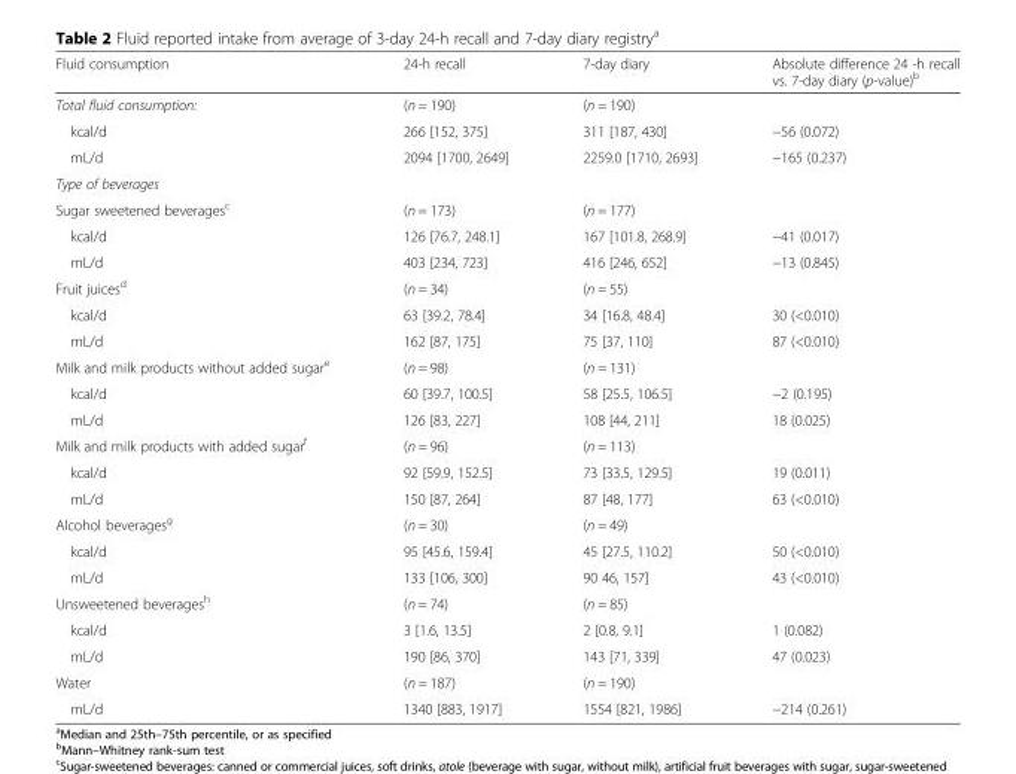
<table><thead><tr><td>Fluid consumption</td><td>24-h recall</td><td>7-day diary</td><td>Absolute difference 24 -h recall vs. 7-day diary (p-value)<sup>b</sup></td></tr></thead><tbody><tr><td>Total fluid consumption:</td><td>(n = 190)</td><td>(n = 190)</td><td></td></tr><tr><td>kcal/d</td><td>266 [152, 375]</td><td>311 [187, 430]</td><td>−56 (0.072)</td></tr><tr><td>mL/d</td><td>2094 [1700, 2649]</td><td>2259.0 [1710, 2693]</td><td>−165 (0.237)</td></tr><tr><td colspan="4">Type of beverages</td></tr><tr><td>Sugar sweetened beverages<sup>c</sup></td><td>(n = 173)</td><td>(n = 177)</td><td></td></tr><tr><td>kcal/d</td><td>126 [76.7, 248.1]</td><td>167 [101.8, 268.9]</td><td>−41 (0.017)</td></tr><tr><td>mL/d</td><td>403 [234, 723]</td><td>416 [246, 652]</td><td>−13 (0.845)</td></tr><tr><td>Fruit juices<sup>d</sup></td><td>(n = 34)</td><td>(n = 55)</td><td></td></tr><tr><td>kcal/d</td><td>63 [39.2, 78.4]</td><td>34 [16.8, 48.4]</td><td>30 (&lt;0.010)</td></tr><tr><td>mL/d</td><td>162 [87, 175]</td><td>75 [37, 110]</td><td>87 (&lt;0.010)</td></tr><tr><td>Milk and milk products without added sugar<sup>e</sup></td><td>(n = 98)</td><td>(n = 131)</td><td></td></tr><tr><td>kcal/d</td><td>60 [39.7, 100.5]</td><td>58 [25.5, 106.5]</td><td>−2 (0.195)</td></tr><tr><td>mL/d</td><td>126 [83, 227]</td><td>108 [44, 211]</td><td>18 (0.025)</td></tr><tr><td>Milk and milk products with added sugar<sup>f</sup></td><td>(n = 96)</td><td>(n = 113)</td><td></td></tr><tr><td>kcal/d</td><td>92 [59.9, 152.5]</td><td>73 [33.5, 129.5]</td><td>19 (0.011)</td></tr><tr><td>mL/d</td><td>150 [87, 264]</td><td>87 [48, 177]</td><td>63 (&lt;0.010)</td></tr><tr><td>Alcohol beverages<sup>g</sup></td><td>(n = 30)</td><td>(n = 49)</td><td></td></tr><tr><td>kcal/d</td><td>95 [45.6, 159.4]</td><td>45 [27.5, 110.2]</td><td>50 (&lt;0.010)</td></tr><tr><td>mL/d</td><td>133 [106, 300]</td><td>90 46, 157]</td><td>43 (&lt;0.010)</td></tr><tr><td>Unsweetened beverages<sup>h</sup></td><td>(n = 74)</td><td>(n = 85)</td><td></td></tr><tr><td>kcal/d</td><td>3 [1.6, 13.5]</td><td>2 [0.8, 9.1]</td><td>1 (0.082)</td></tr><tr><td>mL/d</td><td>190 [86, 370]</td><td>143 [71, 339]</td><td>47 (0.023)</td></tr><tr><td>Water</td><td>(n = 187)</td><td>(n = 190)</td><td></td></tr><tr><td>mL/d</td><td>1340 [883, 1917]</td><td>1554 [821, 1986]</td><td>−214 (0.261)</td></tr></tbody></table>